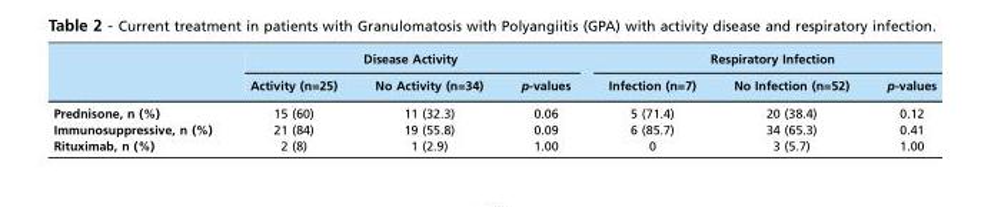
<table><thead><tr><td rowspan="2"></td><td colspan="3">Disease Activity</td><td colspan="3">Respiratory Infection</td></tr><tr><td>Activity (n=25)</td><td>No Activity (n=34)</td><td>p-values</td><td>Infection (n=7)</td><td>No Infection (n=52)</td><td>p-values</td></tr></thead><tbody><tr><td>Prednisone, n (%)</td><td>15 (60)</td><td>11 (32.3)</td><td>0.06</td><td>5 (71.4)</td><td>20 (38.4)</td><td>0.12</td></tr><tr><td>Immunosuppressive, n (%)</td><td>21 (84)</td><td>19 (55.8)</td><td>0.09</td><td>6 (85.7)</td><td>34 (65.3)</td><td>0.41</td></tr><tr><td>Rituximab, n (%)</td><td>2 (8)</td><td>1 (2.9)</td><td>1.00</td><td>0</td><td>3 (5.7)</td><td>1.00</td></tr></tbody></table>